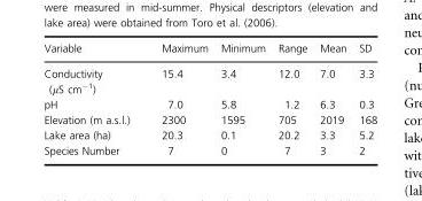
<table><thead><tr><td>Variable</td><td>Maximum</td><td>Minimum</td><td>Range</td><td>Mean</td><td>SD</td></tr></thead><tbody><tr><td>Conductivity (μS cm<sup>−1</sup>)</td><td>15.4</td><td>3.4</td><td>12.0</td><td>7.0</td><td>3.3</td></tr><tr><td>pH</td><td>7.0</td><td>5.8</td><td>1.2</td><td>6.3</td><td>0.3</td></tr><tr><td>Elevation (m a.s.l.)</td><td>2300</td><td>1595</td><td>705</td><td>2019</td><td>168</td></tr><tr><td>Lake area (ha)</td><td>20.3</td><td>0.1</td><td>20.2</td><td>3.3</td><td>5.2</td></tr><tr><td>Species Number</td><td>7</td><td>0</td><td>7</td><td>3</td><td>2</td></tr></tbody></table>